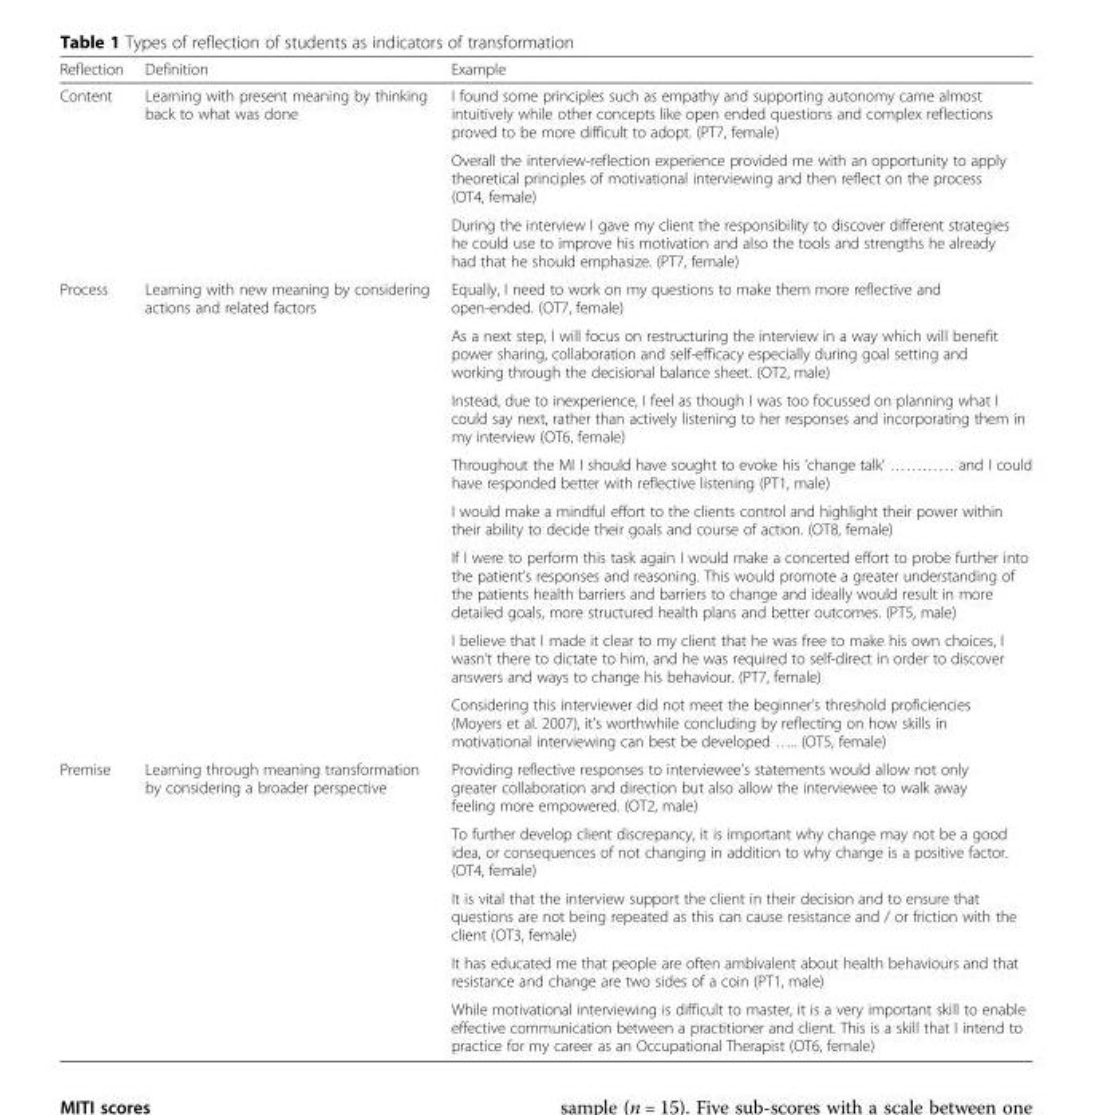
<table><thead><tr><td>Reflection</td><td>Definition</td><td>Example</td></tr></thead><tbody><tr><td rowspan="3">Content</td><td rowspan="3">Learning with present meaning by thinking back to what was done</td><td>I found some principles such as empathy and supporting autonomy came almost intuitively while other concepts like open ended questions and complex reflections proved to be more difficult to adopt. (PT7, female)</td></tr><tr><td>Overall the interview-reflection experience provided me with an opportunity to apply theoretical principles of motivational interviewing and then reflect on the process (OT4, female)</td></tr><tr><td>During the interview I gave my client the responsibility to discover different strategies he could use to improve his motivation and also the tools and strengths he already had that he should emphasize. (PT7, female)</td></tr><tr><td rowspan="8">Process</td><td rowspan="8">Learning with new meaning by considering actions and related factors</td><td>Equally, I need to work on my questions to make them more reflective and open-ended. (OT7, female)</td></tr><tr><td>As a next step, I will focus on restructuring the interview in a way which will benefit power sharing, collaboration and self-efficacy especially during goal setting and working through the decisional balance sheet. (OT2, male)</td></tr><tr><td>Instead, due to inexperience, I feel as though I was too focussed on planning what I could say next, rather than actively listening to her responses and incorporating them in my interview (OT6, female)</td></tr><tr><td>Throughout the MI I should have sought to evoke his ‘change talk’ ………… and I could have responded better with reflective listening (PT1, male)</td></tr><tr><td>I would make a mindful effort to the clients control and highlight their power within their ability to decide their goals and course of action. (OT8, female)</td></tr><tr><td>If I were to perform this task again I would make a concerted effort to probe further into the patient’s responses and reasoning. This would promote a greater understanding of the patients health barriers and barriers to change and ideally would result in more detailed goals, more structured health plans and better outcomes. (PT5, male)</td></tr><tr><td>I believe that I made it clear to my client that he was free to make his own choices, I wasn’t there to dictate to him, and he was required to self-direct in order to discover answers and ways to change his behaviour. (PT7, female)</td></tr><tr><td>Considering this interviewer did not meet the beginner’s threshold proficiencies (Moyers et al. 2007), it’s worthwhile concluding by reflecting on how skills in motivational interviewing can best be developed ….. (OT5, female)</td></tr><tr><td rowspan="5">Premise</td><td rowspan="5">Learning through meaning transformation by considering a broader perspective</td><td>Providing reflective responses to interviewee’s statements would allow not only greater collaboration and direction but also allow the interviewee to walk away feeling more empowered. (OT2, male)</td></tr><tr><td>To further develop client discrepancy, it is important why change may not be a good idea, or consequences of not changing in addition to why change is a positive factor. (OT4, female)</td></tr><tr><td>It is vital that the interview support the client in their decision and to ensure that questions are not being repeated as this can cause resistance and / or friction with the client (OT3, female)</td></tr><tr><td>It has educated me that people are often ambivalent about health behaviours and that resistance and change are two sides of a coin (PT1, male)</td></tr><tr><td>While motivational interviewing is difficult to master, it is a very important skill to enable effective communication between a practitioner and client. This is a skill that I intend to practice for my career as an Occupational Therapist (OT6, female)</td></tr></tbody></table>